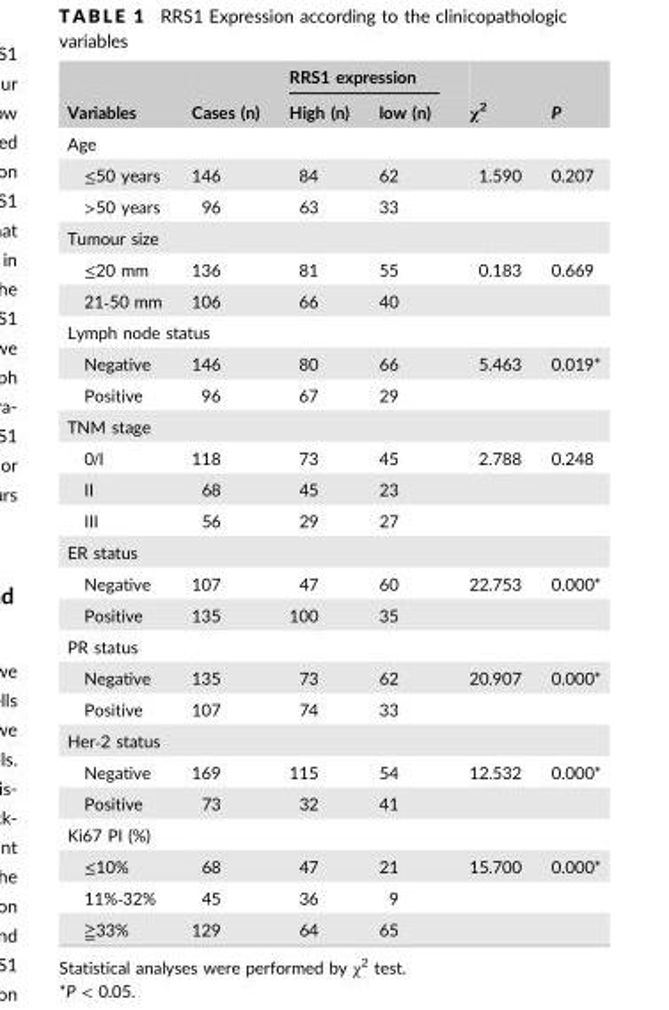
<table><thead><tr><td rowspan="2">Variables</td><td rowspan="2">Cases (n)</td><td colspan="2">RRS1 expression</td><td rowspan="2">χ<sup>2</sup></td><td rowspan="2">P</td></tr><tr><td>High (n)</td><td>low (n)</td></tr></thead><tbody><tr><td colspan="6">Age</td></tr><tr><td>≤50 years</td><td>146</td><td>84</td><td>62</td><td>1.590</td><td>0.207</td></tr><tr><td>&gt;50 years</td><td>96</td><td>63</td><td>33</td><td></td><td></td></tr><tr><td colspan="6">Tumour size</td></tr><tr><td>≤20 mm</td><td>136</td><td>81</td><td>55</td><td>0.183</td><td>0.669</td></tr><tr><td>21‐50 mm</td><td>106</td><td>66</td><td>40</td><td></td><td></td></tr><tr><td colspan="6">Lymph node status</td></tr><tr><td>Negative</td><td>146</td><td>80</td><td>66</td><td>5.463</td><td>0.019*</td></tr><tr><td>Positive</td><td>96</td><td>67</td><td>29</td><td></td><td></td></tr><tr><td colspan="6">TNM stage</td></tr><tr><td>0/I</td><td>118</td><td>73</td><td>45</td><td>2.788</td><td>0.248</td></tr><tr><td>II</td><td>68</td><td>45</td><td>23</td><td></td><td></td></tr><tr><td>III</td><td>56</td><td>29</td><td>27</td><td></td><td></td></tr><tr><td colspan="6">ER status</td></tr><tr><td>Negative</td><td>107</td><td>47</td><td>60</td><td>22.753</td><td>0.000*</td></tr><tr><td>Positive</td><td>135</td><td>100</td><td>35</td><td></td><td></td></tr><tr><td colspan="6">PR status</td></tr><tr><td>Negative</td><td>135</td><td>73</td><td>62</td><td>20.907</td><td>0.000*</td></tr><tr><td>Positive</td><td>107</td><td>74</td><td>33</td><td></td><td></td></tr><tr><td colspan="6">Her‐2 status</td></tr><tr><td>Negative</td><td>169</td><td>115</td><td>54</td><td>12.532</td><td>0.000*</td></tr><tr><td>Positive</td><td>73</td><td>32</td><td>41</td><td></td><td></td></tr><tr><td colspan="6">Ki67 PI (%)</td></tr><tr><td>≤10%</td><td>68</td><td>47</td><td>21</td><td>15.700</td><td>0.000*</td></tr><tr><td>11%‐32%</td><td>45</td><td>36</td><td>9</td><td></td><td></td></tr><tr><td>≧33%</td><td>129</td><td>64</td><td>65</td><td></td><td></td></tr></tbody></table>